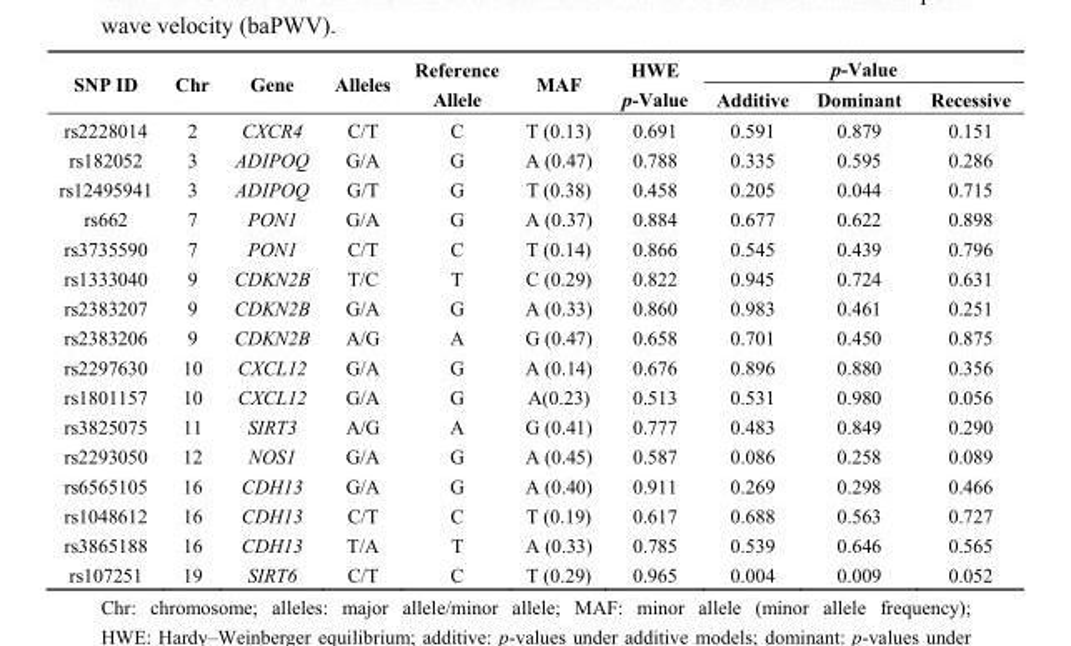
<table><thead><tr><td rowspan="2">SNP ID</td><td rowspan="2">Chr</td><td rowspan="2">Gene</td><td rowspan="2">Alleles</td><td rowspan="2">Reference Allele</td><td rowspan="2">MAF</td><td rowspan="2">HWE p-Value</td><td colspan="3">p-Value</td></tr><tr><td>Additive</td><td>Dominant</td><td>Recessive</td></tr></thead><tbody><tr><td>rs2228014</td><td>2</td><td>CXCR4</td><td>C/T</td><td>C</td><td>T (0.13)</td><td>0.691</td><td>0.591</td><td>0.879</td><td>0.151</td></tr><tr><td>rs182052</td><td>3</td><td>ADIPOQ</td><td>G/A</td><td>G</td><td>A (0.47)</td><td>0.788</td><td>0.335</td><td>0.595</td><td>0.286</td></tr><tr><td>rs12495941</td><td>3</td><td>ADIPOQ</td><td>G/T</td><td>G</td><td>T (0.38)</td><td>0.458</td><td>0.205</td><td>0.044</td><td>0.715</td></tr><tr><td>rs662</td><td>7</td><td>PON1</td><td>G/A</td><td>G</td><td>A (0.37)</td><td>0.884</td><td>0.677</td><td>0.622</td><td>0.898</td></tr><tr><td>rs3735590</td><td>7</td><td>PON1</td><td>C/T</td><td>C</td><td>T (0.14)</td><td>0.866</td><td>0.545</td><td>0.439</td><td>0.796</td></tr><tr><td>rs1333040</td><td>9</td><td>CDKN2B</td><td>T/C</td><td>T</td><td>C (0.29)</td><td>0.822</td><td>0.945</td><td>0.724</td><td>0.631</td></tr><tr><td>rs2383207</td><td>9</td><td>CDKN2B</td><td>G/A</td><td>G</td><td>A (0.33)</td><td>0.860</td><td>0.983</td><td>0.461</td><td>0.251</td></tr><tr><td>rs2383206</td><td>9</td><td>CDKN2B</td><td>A/G</td><td>A</td><td>G (0.47)</td><td>0.658</td><td>0.701</td><td>0.450</td><td>0.875</td></tr><tr><td>rs2297630</td><td>10</td><td>CXCL12</td><td>G/A</td><td>G</td><td>A (0.14)</td><td>0.676</td><td>0.896</td><td>0.880</td><td>0.356</td></tr><tr><td>rs1801157</td><td>10</td><td>CXCL12</td><td>G/A</td><td>G</td><td>A(0.23)</td><td>0.513</td><td>0.531</td><td>0.980</td><td>0.056</td></tr><tr><td>rs3825075</td><td>11</td><td>SIRT3</td><td>A/G</td><td>A</td><td>G (0.41)</td><td>0.777</td><td>0.483</td><td>0.849</td><td>0.290</td></tr><tr><td>rs2293050</td><td>12</td><td>NOS1</td><td>G/A</td><td>G</td><td>A (0.45)</td><td>0.587</td><td>0.086</td><td>0.258</td><td>0.089</td></tr><tr><td>rs6565105</td><td>16</td><td>CDH13</td><td>G/A</td><td>G</td><td>A (0.40)</td><td>0.911</td><td>0.269</td><td>0.298</td><td>0.466</td></tr><tr><td>rs1048612</td><td>16</td><td>CDH13</td><td>C/T</td><td>C</td><td>T (0.19)</td><td>0.617</td><td>0.688</td><td>0.563</td><td>0.727</td></tr><tr><td>rs3865188</td><td>16</td><td>CDH13</td><td>T/A</td><td>T</td><td>A (0.33)</td><td>0.785</td><td>0.539</td><td>0.646</td><td>0.565</td></tr><tr><td>rs107251</td><td>19</td><td>SIRT6</td><td>C/T</td><td>C</td><td>T (0.29)</td><td>0.965</td><td>0.004</td><td>0.009</td><td>0.052</td></tr></tbody></table>